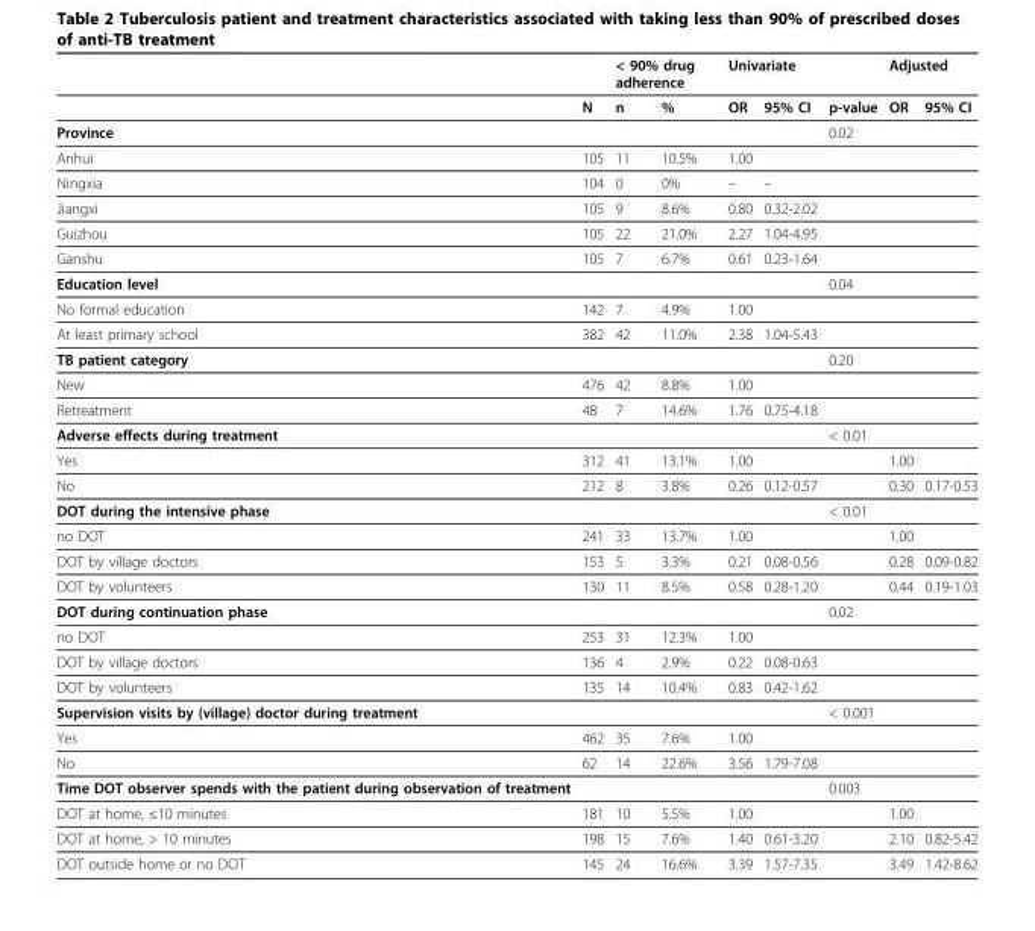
<table><thead><tr><td rowspan="2"></td><td rowspan="2">N</td><td colspan="2">&lt; 90% drug adherence</td><td colspan="3">Univariate</td><td colspan="2">Adjusted</td></tr><tr><td>n</td><td>%</td><td>OR</td><td>95% CI</td><td>p-value</td><td>OR</td><td>95% CI</td></tr></thead><tbody><tr><td>Province</td><td></td><td></td><td></td><td></td><td></td><td>0.02</td><td></td><td></td></tr><tr><td>Anhui</td><td>105</td><td>11</td><td>10.5%</td><td>1.00</td><td></td><td></td><td></td><td></td></tr><tr><td>Ningxia</td><td>104</td><td>0</td><td>0%</td><td>–</td><td>–</td><td></td><td></td><td></td></tr><tr><td>Jiangxi</td><td>105</td><td>9</td><td>8.6%</td><td>0.80</td><td>0.32-2.02</td><td></td><td></td><td></td></tr><tr><td>Guizhou</td><td>105</td><td>22</td><td>21.0%</td><td>2.27</td><td>1.04-4.95</td><td></td><td></td><td></td></tr><tr><td>Ganshu</td><td>105</td><td>7</td><td>6.7%</td><td>0.61</td><td>0.23-1.64</td><td></td><td></td><td></td></tr><tr><td>Education level</td><td></td><td></td><td></td><td></td><td></td><td>0.04</td><td></td><td></td></tr><tr><td>No formal education</td><td>142</td><td>7</td><td>4.9%</td><td>1.00</td><td></td><td></td><td></td><td></td></tr><tr><td>At least primary school</td><td>382</td><td>42</td><td>11.0%</td><td>2.38</td><td>1.04-5.43</td><td></td><td></td><td></td></tr><tr><td>TB patient category</td><td></td><td></td><td></td><td></td><td></td><td>0.20</td><td></td><td></td></tr><tr><td>New</td><td>476</td><td>42</td><td>8.8%</td><td>1.00</td><td></td><td></td><td></td><td></td></tr><tr><td>Retreatment</td><td>48</td><td>7</td><td>14.6%</td><td>1.76</td><td>0.75-4.18</td><td></td><td></td><td></td></tr><tr><td>Adverse effects during treatment</td><td></td><td></td><td></td><td></td><td></td><td>&lt; 0.01</td><td></td><td></td></tr><tr><td>Yes</td><td>312</td><td>41</td><td>13.1%</td><td>1.00</td><td></td><td></td><td>1.00</td><td></td></tr><tr><td>No</td><td>212</td><td>8</td><td>3.8%</td><td>0.26</td><td>0.12-0.57</td><td></td><td>0.30</td><td>0.17-0.53</td></tr><tr><td>DOT during the intensive phase</td><td></td><td></td><td></td><td></td><td></td><td>&lt; 0.01</td><td></td><td></td></tr><tr><td>no DOT</td><td>241</td><td>33</td><td>13.7%</td><td>1.00</td><td></td><td></td><td>1.00</td><td></td></tr><tr><td>DOT by village doctors</td><td>153</td><td>5</td><td>3.3%</td><td>0.21</td><td>0.08-0.56</td><td></td><td>0.28</td><td>0.09-0.82</td></tr><tr><td>DOT by volunteers</td><td>130</td><td>11</td><td>8.5%</td><td>0.58</td><td>0.28-1.20</td><td></td><td>0.44</td><td>0.19-1.03</td></tr><tr><td>DOT during continuation phase</td><td></td><td></td><td></td><td></td><td></td><td>0.02</td><td></td><td></td></tr><tr><td>no DOT</td><td>253</td><td>31</td><td>12.3%</td><td>1.00</td><td></td><td></td><td></td><td></td></tr><tr><td>DOT by village doctors</td><td>136</td><td>4</td><td>2.9%</td><td>0.22</td><td>0.08-0.63</td><td></td><td></td><td></td></tr><tr><td>DOT by volunteers</td><td>135</td><td>14</td><td>10.4%</td><td>0.83</td><td>0.42-1.62</td><td></td><td></td><td></td></tr><tr><td>Supervision visits by (village) doctor during treatment</td><td></td><td></td><td></td><td></td><td></td><td>&lt; 0.001</td><td></td><td></td></tr><tr><td>Yes</td><td>462</td><td>35</td><td>7.6%</td><td>1.00</td><td></td><td></td><td></td><td></td></tr><tr><td>No</td><td>62</td><td>14</td><td>22.6%</td><td>3.56</td><td>1.79-7.08</td><td></td><td></td><td></td></tr><tr><td>Time DOT observer spends with the patient during observation of treatment</td><td></td><td></td><td></td><td></td><td></td><td>0.003</td><td></td><td></td></tr><tr><td>DOT at home, ≤10 minutes</td><td>181</td><td>10</td><td>5.5%</td><td>1.00</td><td></td><td></td><td>1.00</td><td></td></tr><tr><td>DOT at home, &gt; 10 minutes</td><td>198</td><td>15</td><td>7.6%</td><td>1.40</td><td>0.61-3.20</td><td></td><td>2.10</td><td>0.82-5.42</td></tr><tr><td>DOT outside home or no DOT</td><td>145</td><td>24</td><td>16.6%</td><td>3.39</td><td>1.57-7.35</td><td></td><td>3.49</td><td>1.42-8.62</td></tr></tbody></table>